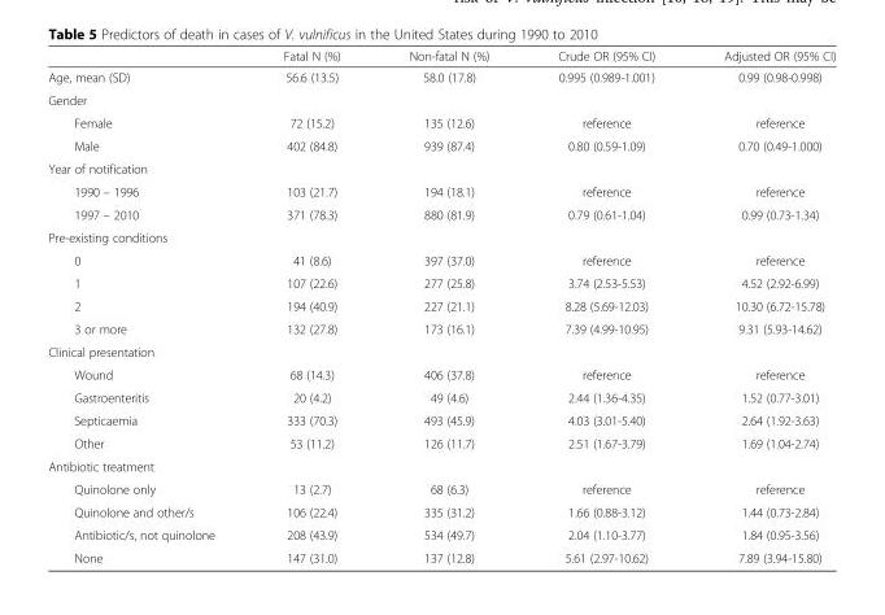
<table><thead><tr><td></td><td>Fatal N (%)</td><td>Non-fatal N (%)</td><td>Crude OR (95% CI)</td><td>Adjusted OR (95% CI)</td></tr></thead><tbody><tr><td>Age, mean (SD)</td><td>56.6 (13.5)</td><td>58.0 (17.8)</td><td>0.995 (0.989-1.001)</td><td>0.99 (0.98-0.998)</td></tr><tr><td colspan="5">Gender</td></tr><tr><td>Female</td><td>72 (15.2)</td><td>135 (12.6)</td><td>reference</td><td>reference</td></tr><tr><td>Male</td><td>402 (84.8)</td><td>939 (87.4)</td><td>0.80 (0.59-1.09)</td><td>0.70 (0.49-1.000)</td></tr><tr><td colspan="5">Year of notification</td></tr><tr><td>1990 – 1996</td><td>103 (21.7)</td><td>194 (18.1)</td><td>reference</td><td>reference</td></tr><tr><td>1997 – 2010</td><td>371 (78.3)</td><td>880 (81.9)</td><td>0.79 (0.61-1.04)</td><td>0.99 (0.73-1.34)</td></tr><tr><td colspan="5">Pre-existing conditions</td></tr><tr><td>0</td><td>41 (8.6)</td><td>397 (37.0)</td><td>reference</td><td>reference</td></tr><tr><td>1</td><td>107 (22.6)</td><td>277 (25.8)</td><td>3.74 (2.53-5.53)</td><td>4.52 (2.92-6.99)</td></tr><tr><td>2</td><td>194 (40.9)</td><td>227 (21.1)</td><td>8.28 (5.69-12.03)</td><td>10.30 (6.72-15.78)</td></tr><tr><td>3 or more</td><td>132 (27.8)</td><td>173 (16.1)</td><td>7.39 (4.99-10.95)</td><td>9.31 (5.93-14.62)</td></tr><tr><td colspan="5">Clinical presentation</td></tr><tr><td>Wound</td><td>68 (14.3)</td><td>406 (37.8)</td><td>reference</td><td>reference</td></tr><tr><td>Gastroenteritis</td><td>20 (4.2)</td><td>49 (4.6)</td><td>2.44 (1.36-4.35)</td><td>1.52 (0.77-3.01)</td></tr><tr><td>Septicaemia</td><td>333 (70.3)</td><td>493 (45.9)</td><td>4.03 (3.01-5.40)</td><td>2.64 (1.92-3.63)</td></tr><tr><td>Other</td><td>53 (11.2)</td><td>126 (11.7)</td><td>2.51 (1.67-3.79)</td><td>1.69 (1.04-2.74)</td></tr><tr><td colspan="5">Antibiotic treatment</td></tr><tr><td>Quinolone only</td><td>13 (2.7)</td><td>68 (6.3)</td><td>reference</td><td>reference</td></tr><tr><td>Quinolone and other/s</td><td>106 (22.4)</td><td>335 (31.2)</td><td>1.66 (0.88-3.12)</td><td>1.44 (0.73-2.84)</td></tr><tr><td>Antibiotic/s, not quinolone</td><td>208 (43.9)</td><td>534 (49.7)</td><td>2.04 (1.10-3.77)</td><td>1.84 (0.95-3.56)</td></tr><tr><td>None</td><td>147 (31.0)</td><td>137 (12.8)</td><td>5.61 (2.97-10.62)</td><td>7.89 (3.94-15.80)</td></tr></tbody></table>